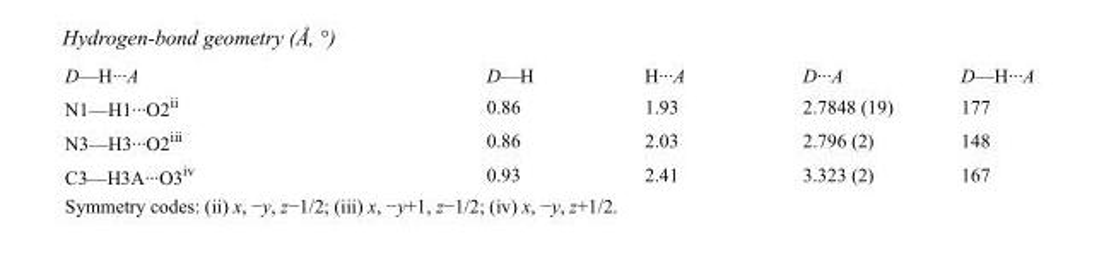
<table><tbody><tr><td>D—H···A</td><td>D—H</td><td>H···A</td><td>D···A</td><td>D—H···A</td></tr><tr><td>N1—H1···O2<sup>ii</sup></td><td>0.86</td><td>1.93</td><td>2.7848 (19)</td><td>177</td></tr><tr><td>N3—H3···O2<sup>iii</sup></td><td>0.86</td><td>2.03</td><td>2.796 (2)</td><td>148</td></tr><tr><td>C3—H3A···O3<sup>iv</sup></td><td>0.93</td><td>2.41</td><td>3.323 (2)</td><td>167</td></tr></tbody></table>